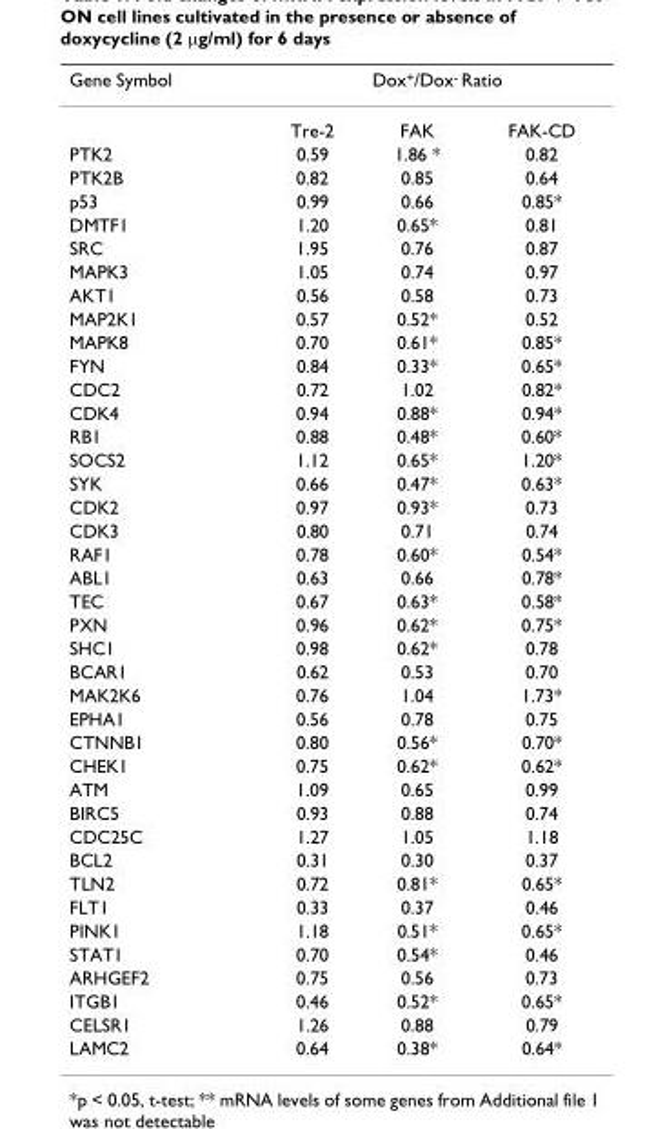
<table><thead><tr><td rowspan="2">Gene Symbol</td><td colspan="3">Dox<sup>+</sup>/Dox<sup>-</sup> Ratio</td></tr><tr><td>Tre-2</td><td>FAK</td><td>FAK-CD</td></tr></thead><tbody><tr><td>PTK2</td><td>0.59</td><td>1.86 *</td><td>0.82</td></tr><tr><td>PTK2B</td><td>0.82</td><td>0.85</td><td>0.64</td></tr><tr><td>p53</td><td>0.99</td><td>0.66</td><td>0.85*</td></tr><tr><td>DMTF1</td><td>1.20</td><td>0.65*</td><td>0.81</td></tr><tr><td>SRC</td><td>1.95</td><td>0.76</td><td>0.87</td></tr><tr><td>MAPK3</td><td>1.05</td><td>0.74</td><td>0.97</td></tr><tr><td>AKT1</td><td>0.56</td><td>0.58</td><td>0.73</td></tr><tr><td>MAP2K1</td><td>0.57</td><td>0.52*</td><td>0.52</td></tr><tr><td>MAPK8</td><td>0.70</td><td>0.61*</td><td>0.85*</td></tr><tr><td>FYN</td><td>0.84</td><td>0.33*</td><td>0.65*</td></tr><tr><td>CDC2</td><td>0.72</td><td>1.02</td><td>0.82*</td></tr><tr><td>CDK4</td><td>0.94</td><td>0.88*</td><td>0.94*</td></tr><tr><td>RB1</td><td>0.88</td><td>0.48*</td><td>0.60*</td></tr><tr><td>SOCS2</td><td>1.12</td><td>0.65*</td><td>1.20*</td></tr><tr><td>SYK</td><td>0.66</td><td>0.47*</td><td>0.63*</td></tr><tr><td>CDK2</td><td>0.97</td><td>0.93*</td><td>0.73</td></tr><tr><td>CDK3</td><td>0.80</td><td>0.71</td><td>0.74</td></tr><tr><td>RAF1</td><td>0.78</td><td>0.60*</td><td>0.54*</td></tr><tr><td>ABL1</td><td>0.63</td><td>0.66</td><td>0.78*</td></tr><tr><td>TEC</td><td>0.67</td><td>0.63*</td><td>0.58*</td></tr><tr><td>PXN</td><td>0.96</td><td>0.62*</td><td>0.75*</td></tr><tr><td>SHC1</td><td>0.98</td><td>0.62*</td><td>0.78</td></tr><tr><td>BCAR1</td><td>0.62</td><td>0.53</td><td>0.70</td></tr><tr><td>MAK2K6</td><td>0.76</td><td>1.04</td><td>1.73*</td></tr><tr><td>EPHA1</td><td>0.56</td><td>0.78</td><td>0.75</td></tr><tr><td>CTNNB1</td><td>0.80</td><td>0.56*</td><td>0.70*</td></tr><tr><td>CHEK1</td><td>0.75</td><td>0.62*</td><td>0.62*</td></tr><tr><td>ATM</td><td>1.09</td><td>0.65</td><td>0.99</td></tr><tr><td>BIRC5</td><td>0.93</td><td>0.88</td><td>0.74</td></tr><tr><td>CDC25C</td><td>1.27</td><td>1.05</td><td>1.18</td></tr><tr><td>BCL2</td><td>0.31</td><td>0.30</td><td>0.37</td></tr><tr><td>TLN2</td><td>0.72</td><td>0.81*</td><td>0.65*</td></tr><tr><td>FLT1</td><td>0.33</td><td>0.37</td><td>0.46</td></tr><tr><td>PINK1</td><td>1.18</td><td>0.51*</td><td>0.65*</td></tr><tr><td>STAT1</td><td>0.70</td><td>0.54*</td><td>0.46</td></tr><tr><td>ARHGEF2</td><td>0.75</td><td>0.56</td><td>0.73</td></tr><tr><td>ITGB1</td><td>0.46</td><td>0.52*</td><td>0.65*</td></tr><tr><td>CELSR1</td><td>1.26</td><td>0.88</td><td>0.79</td></tr><tr><td>LAMC2</td><td>0.64</td><td>0.38*</td><td>0.64*</td></tr></tbody></table>